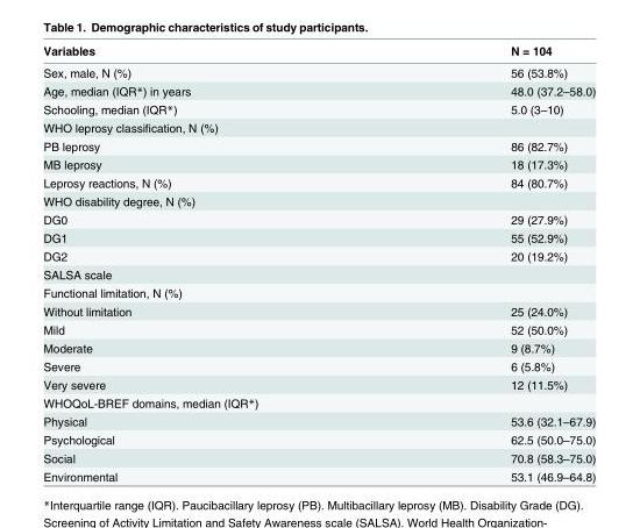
<table><thead><tr><td>Variables</td><td>N = 104</td></tr></thead><tbody><tr><td>Sex, male, N (%)</td><td>56 (53.8%)</td></tr><tr><td>Age, median (IQR*) in years</td><td>48.0 (37.2–58.0)</td></tr><tr><td>Schooling, median (IQR*)</td><td>5.0 (3–10)</td></tr><tr><td colspan="2">WHO leprosy classification, N (%)</td></tr><tr><td>PB leprosy</td><td>86 (82.7%)</td></tr><tr><td>MB leprosy</td><td>18 (17.3%)</td></tr><tr><td>Leprosy reactions, N (%)</td><td>84 (80.7%)</td></tr><tr><td colspan="2">WHO disability degree, N (%)</td></tr><tr><td>DG0</td><td>29 (27.9%)</td></tr><tr><td>DG1</td><td>55 (52.9%)</td></tr><tr><td>DG2</td><td>20 (19.2%)</td></tr><tr><td colspan="2">SALSA scale</td></tr><tr><td colspan="2">Functional limitation, N (%)</td></tr><tr><td>Without limitation</td><td>25 (24.0%)</td></tr><tr><td>Mild</td><td>52 (50.0%)</td></tr><tr><td>Moderate</td><td>9 (8.7%)</td></tr><tr><td>Severe</td><td>6 (5.8%)</td></tr><tr><td>Very severe</td><td>12 (11.5%)</td></tr><tr><td colspan="2">WHOQoL-BREF domains, median (IQR*)</td></tr><tr><td>Physical</td><td>53.6 (32.1–67.9)</td></tr><tr><td>Psychological</td><td>62.5 (50.0–75.0)</td></tr><tr><td>Social</td><td>70.8 (58.3–75.0)</td></tr><tr><td>Environmental</td><td>53.1 (46.9–64.8)</td></tr></tbody></table>